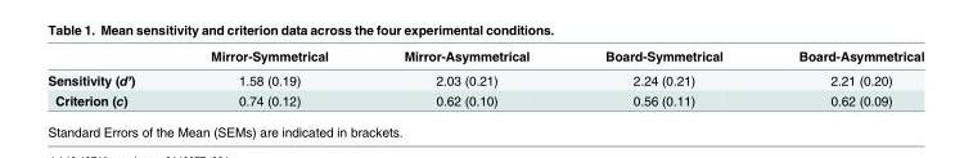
<table><thead><tr><td></td><td>Mirror-Symmetrical</td><td>Mirror-Asymmetrical</td><td>Board-Symmetrical</td><td>Board-Asymmetrical</td></tr></thead><tbody><tr><td>Sensitivity (d’)</td><td>1.58 (0.19)</td><td>2.03 (0.21)</td><td>2.24 (0.21)</td><td>2.21 (0.20)</td></tr><tr><td>Criterion (c)</td><td>0.74 (0.12)</td><td>0.62 (0.10)</td><td>0.56 (0.11)</td><td>0.62 (0.09)</td></tr></tbody></table>